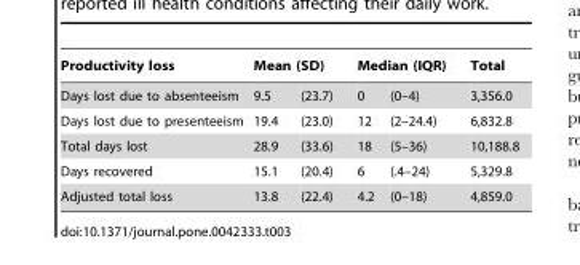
<table><thead><tr><td rowspan="2">Productivity loss Days lost due to absenteeism</td><td colspan="2">Mean (SD)</td><td colspan="2">Median (IQR)</td><td rowspan="2">Total 3,356.0</td></tr><tr><td>9.5</td><td>(23.7)</td><td>0</td><td>(0–4)</td></tr></thead><tbody><tr><td>Days lost due to presenteeism</td><td>19.4</td><td>(23.0)</td><td>12</td><td>(2–24.4)</td><td>6,832.8</td></tr><tr><td>Total days lost</td><td>28.9</td><td>(33.6)</td><td>18</td><td>(5–36)</td><td>10,188.8</td></tr><tr><td>Days recovered</td><td>15.1</td><td>(20.4)</td><td>6</td><td>(.4–24)</td><td>5,329.8</td></tr><tr><td>Adjusted total loss</td><td>13.8</td><td>(22.4)</td><td>4.2</td><td>(0–18)</td><td>4,859.0</td></tr></tbody></table>